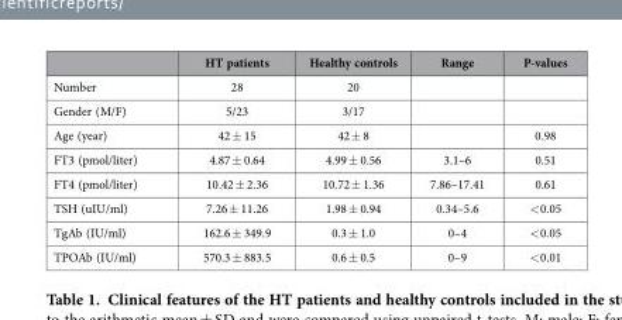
<table><thead><tr><td></td><td>HT patients</td><td>Healthy controls</td><td>Range</td><td>P-values</td></tr></thead><tbody><tr><td>Number</td><td>28</td><td>20</td><td></td><td></td></tr><tr><td>Gender (M/F)</td><td>5/23</td><td>3/17</td><td></td><td></td></tr><tr><td>Age (year)</td><td>42 ± 15</td><td>42 ± 8</td><td></td><td>0.98</td></tr><tr><td>FT3 (pmol/liter)</td><td>4.87 ± 0.64</td><td>4.99 ± 0.56</td><td>3.1–6</td><td>0.51</td></tr><tr><td>FT4 (pmol/liter)</td><td>10.42 ± 2.36</td><td>10.72 ± 1.36</td><td>7.86–17.41</td><td>0.61</td></tr><tr><td>TSH (uIU/ml)</td><td>7.26 ± 11.26</td><td>1.98 ± 0.94</td><td>0.34–5.6</td><td>&lt; 0.05</td></tr><tr><td>TgAb (IU/ml)</td><td>162.6 ± 349.9</td><td>0.3 ± 1.0</td><td>0–4</td><td>&lt; 0.05</td></tr><tr><td>TPOAb (IU/ml)</td><td>570.3 ± 883.5</td><td>0.6 ± 0.5</td><td>0–9</td><td>&lt; 0.01</td></tr></tbody></table>